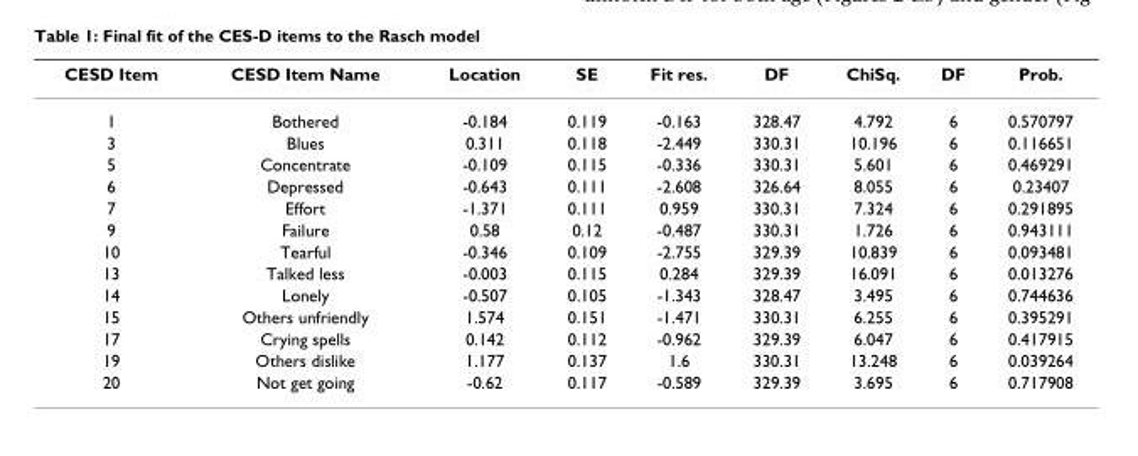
<table><thead><tr><td>CESD Item</td><td>CESD Item Name</td><td>Location</td><td>SE</td><td>Fit res.</td><td>DF</td><td>ChiSq.</td><td>DF</td><td>Prob.</td></tr></thead><tbody><tr><td>1</td><td>Bothered</td><td>-0.184</td><td>0.119</td><td>-0.163</td><td>328.47</td><td>4.792</td><td>6</td><td>0.570797</td></tr><tr><td>3</td><td>Blues</td><td>0.311</td><td>0.118</td><td>-2.449</td><td>330.31</td><td>10.196</td><td>6</td><td>0.116651</td></tr><tr><td>5</td><td>Concentrate</td><td>-0.109</td><td>0.115</td><td>-0.336</td><td>330.31</td><td>5.601</td><td>6</td><td>0.469291</td></tr><tr><td>6</td><td>Depressed</td><td>-0.643</td><td>0.111</td><td>-2.608</td><td>326.64</td><td>8.055</td><td>6</td><td>0.23407</td></tr><tr><td>7</td><td>Effort</td><td>-1.371</td><td>0.111</td><td>0.959</td><td>330.31</td><td>7.324</td><td>6</td><td>0.291895</td></tr><tr><td>9</td><td>Failure</td><td>0.58</td><td>0.12</td><td>-0.487</td><td>330.31</td><td>1.726</td><td>6</td><td>0.943111</td></tr><tr><td>10</td><td>Tearful</td><td>-0.346</td><td>0.109</td><td>-2.755</td><td>329.39</td><td>10.839</td><td>6</td><td>0.093481</td></tr><tr><td>13</td><td>Talked less</td><td>-0.003</td><td>0.115</td><td>0.284</td><td>329.39</td><td>16.091</td><td>6</td><td>0.013276</td></tr><tr><td>14</td><td>Lonely</td><td>-0.507</td><td>0.105</td><td>-1.343</td><td>328.47</td><td>3.495</td><td>6</td><td>0.744636</td></tr><tr><td>15</td><td>Others unfriendly</td><td>1.574</td><td>0.151</td><td>-1.471</td><td>330.31</td><td>6.255</td><td>6</td><td>0.395291</td></tr><tr><td>17</td><td>Crying spells</td><td>0.142</td><td>0.112</td><td>-0.962</td><td>329.39</td><td>6.047</td><td>6</td><td>0.417915</td></tr><tr><td>19</td><td>Others dislike</td><td>1.177</td><td>0.137</td><td>1.6</td><td>330.31</td><td>13.248</td><td>6</td><td>0.039264</td></tr><tr><td>20</td><td>Not get going</td><td>-0.62</td><td>0.117</td><td>-0.589</td><td>329.39</td><td>3.695</td><td>6</td><td>0.717908</td></tr></tbody></table>